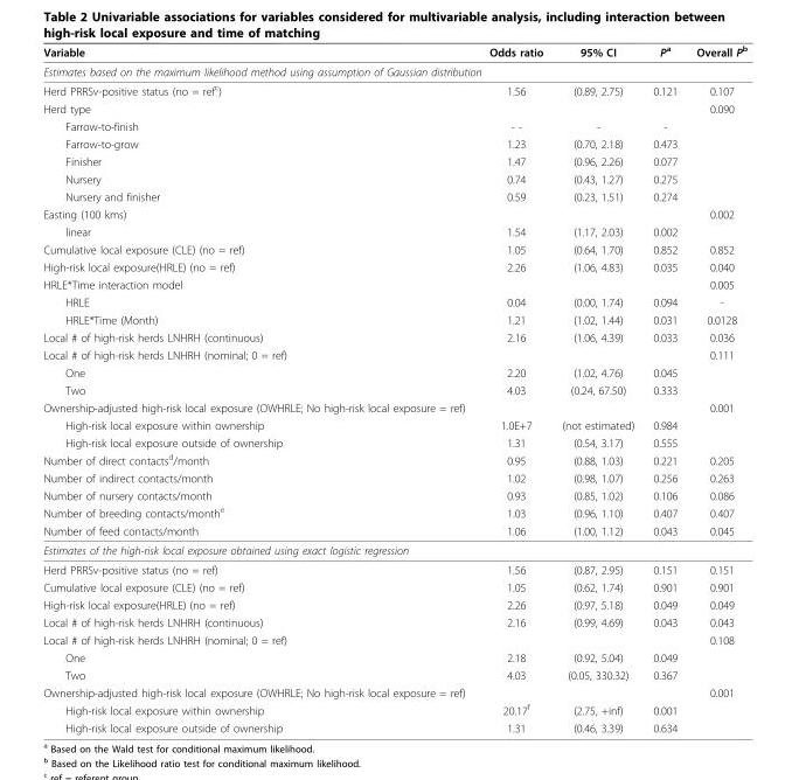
<table><thead><tr><td>Variable</td><td>Odds ratio</td><td>95% CI</td><td>P<sup>a</sup></td><td>Overall P<sup>b</sup></td></tr></thead><tbody><tr><td colspan="5">Estimates based on the maximum likelihood method using assumption of Gaussian distribution</td></tr><tr><td>Herd PRRSv-positive status (no = ref<sup>c</sup>)</td><td>1.56</td><td>(0.89, 2.75)</td><td>0.121</td><td>0.107</td></tr><tr><td>Herd type</td><td></td><td></td><td></td><td>0.090</td></tr><tr><td>Farrow-to-finish</td><td>- -</td><td>-</td><td>-</td><td></td></tr><tr><td>Farrow-to-grow</td><td>1.23</td><td>(0.70, 2.18)</td><td>0.473</td><td></td></tr><tr><td>Finisher</td><td>1.47</td><td>(0.96, 2.26)</td><td>0.077</td><td></td></tr><tr><td>Nursery</td><td>0.74</td><td>(0.43, 1.27)</td><td>0.275</td><td></td></tr><tr><td>Nursery and finisher</td><td>0.59</td><td>(0.23, 1.51)</td><td>0.274</td><td></td></tr><tr><td>Easting (100 kms)</td><td></td><td></td><td></td><td>0.002</td></tr><tr><td>linear</td><td>1.54</td><td>(1.17, 2.03)</td><td>0.002</td><td></td></tr><tr><td>Cumulative local exposure (CLE) (no = ref)</td><td>1.05</td><td>(0.64, 1.70)</td><td>0.852</td><td>0.852</td></tr><tr><td>High-risk local exposure(HRLE) (no = ref)</td><td>2.26</td><td>(1.06, 4.83)</td><td>0.035</td><td>0.040</td></tr><tr><td>HRLE*Time interaction model</td><td></td><td></td><td></td><td>0.005</td></tr><tr><td>HRLE</td><td>0.04</td><td>(0.00, 1.74)</td><td>0.094</td><td>-</td></tr><tr><td>HRLE*Time (Month)</td><td>1.21</td><td>(1.02, 1.44)</td><td>0.031</td><td>0.0128</td></tr><tr><td>Local # of high-risk herds LNHRH (continuous)</td><td>2.16</td><td>(1.06, 4.39)</td><td>0.033</td><td>0.036</td></tr><tr><td>Local # of high-risk herds LNHRH (nominal; 0 = ref)</td><td></td><td></td><td></td><td>0.111</td></tr><tr><td>One</td><td>2.20</td><td>(1.02, 4.76)</td><td>0.045</td><td></td></tr><tr><td>Two</td><td>4.03</td><td>(0.24, 67.50)</td><td>0.333</td><td></td></tr><tr><td>Ownership-adjusted high-risk local exposure (OWHRLE; No high-risk local exposure = ref)</td><td></td><td></td><td></td><td>0.001</td></tr><tr><td>High-risk local exposure within ownership</td><td>1.0E+7</td><td>(not estimated)</td><td>0.984</td><td></td></tr><tr><td>High-risk local exposure outside of ownership</td><td>1.31</td><td>(0.54, 3.17)</td><td>0.555</td><td></td></tr><tr><td>Number of direct contacts<sup>d</sup>/month</td><td>0.95</td><td>(0.88, 1.03)</td><td>0.221</td><td>0.205</td></tr><tr><td>Number of indirect contacts/month</td><td>1.02</td><td>(0.98, 1.07)</td><td>0.256</td><td>0.263</td></tr><tr><td>Number of nursery contacts/month</td><td>0.93</td><td>(0.85, 1.02)</td><td>0.106</td><td>0.086</td></tr><tr><td>Number of breeding contacts/month<sup>e</sup></td><td>1.03</td><td>(0.96, 1.10)</td><td>0.407</td><td>0.407</td></tr><tr><td>Number of feed contacts/month</td><td>1.06</td><td>(1.00, 1.12)</td><td>0.043</td><td>0.045</td></tr><tr><td colspan="5">Estimates of the high-risk local exposure obtained using exact logistic regression</td></tr><tr><td>Herd PRRSv-positive status (no = ref)</td><td>1.56</td><td>(0.87, 2.95)</td><td>0.151</td><td>0.151</td></tr><tr><td>Cumulative local exposure (CLE) (no = ref)</td><td>1.05</td><td>(0.62, 1.74)</td><td>0.901</td><td>0.901</td></tr><tr><td>High-risk local exposure(HRLE) (no = ref)</td><td>2.26</td><td>(0.97, 5.18)</td><td>0.049</td><td>0.049</td></tr><tr><td>Local # of high-risk herds LNHRH (continuous)</td><td>2.16</td><td>(0.99, 4.69)</td><td>0.043</td><td>0.043</td></tr><tr><td>Local # of high-risk herds LNHRH (nominal; 0 = ref)</td><td></td><td></td><td></td><td>0.108</td></tr><tr><td>One</td><td>2.18</td><td>(0.92, 5.04)</td><td>0.049</td><td></td></tr><tr><td>Two</td><td>4.03</td><td>(0.05, 330.32)</td><td>0.367</td><td></td></tr><tr><td>Ownership-adjusted high-risk local exposure (OWHRLE; No high-risk local exposure = ref)</td><td></td><td></td><td></td><td>0.001</td></tr><tr><td>High-risk local exposure within ownership</td><td>20.17<sup>f</sup></td><td>(2.75, +inf)</td><td>0.001</td><td></td></tr><tr><td>High-risk local exposure outside of ownership</td><td>1.31</td><td>(0.46, 3.39)</td><td>0.634</td><td></td></tr></tbody></table>